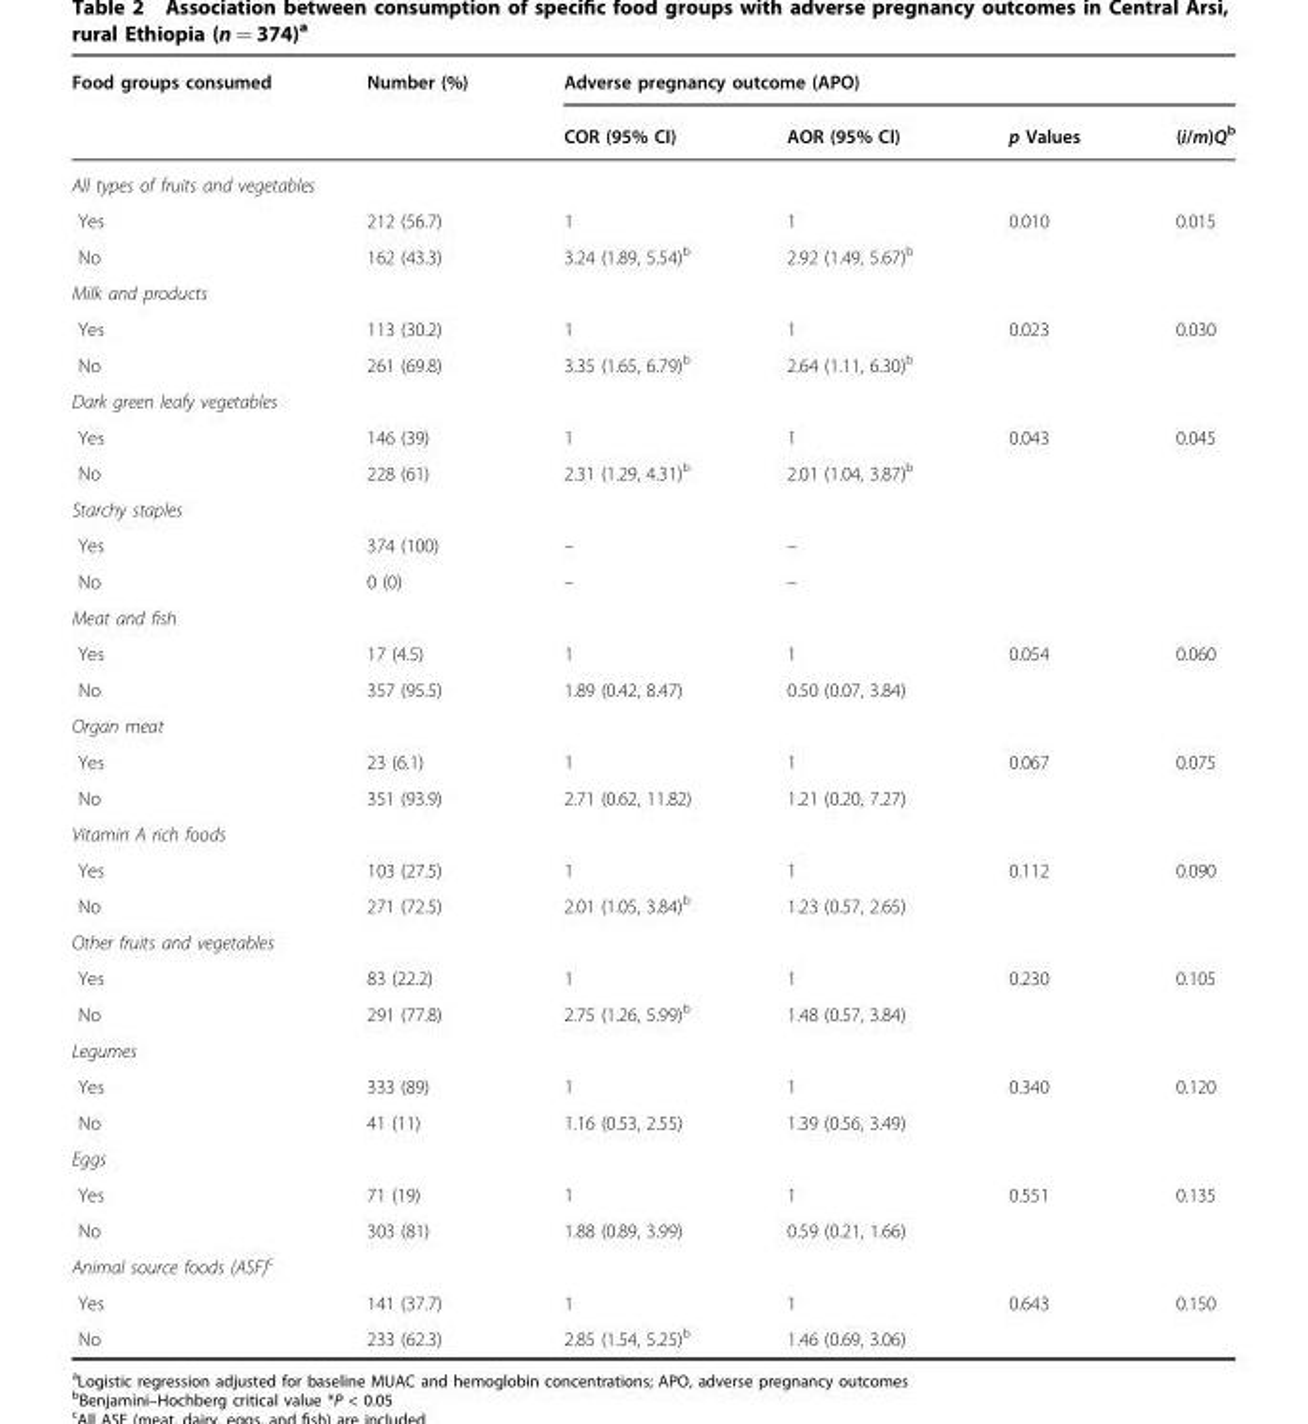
<table><thead><tr><td rowspan="2">Food groups consumed</td><td rowspan="2">Number (%)</td><td colspan="4">Adverse pregnancy outcome (APO)</td></tr><tr><td>COR (95% CI)</td><td>AOR (95% CI)</td><td>p Values</td><td>(i/m)Q<sup>b</sup></td></tr></thead><tbody><tr><td colspan="6">All types of fruits and vegetables</td></tr><tr><td>Yes</td><td>212 (56.7)</td><td>1</td><td>1</td><td rowspan="2">0.010</td><td rowspan="2">0.015</td></tr><tr><td>No</td><td>162 (43.3)</td><td>3.24 (1.89, 5.54)<sup>b</sup></td><td>2.92 (1.49, 5.67)<sup>b</sup></td></tr><tr><td colspan="6">Milk and products</td></tr><tr><td>Yes</td><td>113 (30.2)</td><td>1</td><td>1</td><td rowspan="2">0.023</td><td rowspan="2">0.030</td></tr><tr><td>No</td><td>261 (69.8)</td><td>3.35 (1.65, 6.79)<sup>b</sup></td><td>2.64 (1.11, 6.30)<sup>b</sup></td></tr><tr><td colspan="6">Dark green leafy vegetables</td></tr><tr><td>Yes</td><td>146 (39)</td><td>1</td><td>1</td><td rowspan="2">0.043</td><td rowspan="2">0.045</td></tr><tr><td>No</td><td>228 (61)</td><td>2.31 (1.29, 4.31)<sup>b</sup></td><td>2.01 (1.04, 3.87)<sup>b</sup></td></tr><tr><td colspan="6">Starchy staples</td></tr><tr><td>Yes</td><td>374 (100)</td><td>–</td><td>–</td><td></td><td></td></tr><tr><td>No</td><td>0 (0)</td><td>–</td><td>–</td><td></td><td></td></tr><tr><td colspan="6">Meat and fish</td></tr><tr><td>Yes</td><td>17 (4.5)</td><td>1</td><td>1</td><td rowspan="2">0.054</td><td rowspan="2">0.060</td></tr><tr><td>No</td><td>357 (95.5)</td><td>1.89 (0.42, 8.47)</td><td>0.50 (0.07, 3.84)</td></tr><tr><td colspan="6">Organ meat</td></tr><tr><td>Yes</td><td>23 (6.1)</td><td>1</td><td>1</td><td rowspan="2">0.067</td><td rowspan="2">0.075</td></tr><tr><td>No</td><td>351 (93.9)</td><td>2.71 (0.62, 11.82)</td><td>1.21 (0.20, 7.27)</td></tr><tr><td colspan="6">Vitamin A rich foods</td></tr><tr><td>Yes</td><td>103 (27.5)</td><td>1</td><td>1</td><td rowspan="2">0.112</td><td rowspan="2">0.090</td></tr><tr><td>No</td><td>271 (72.5)</td><td>2.01 (1.05, 3.84)<sup>b</sup></td><td>1.23 (0.57, 2.65)</td></tr><tr><td colspan="6">Other fruits and vegetables</td></tr><tr><td>Yes</td><td>83 (22.2)</td><td>1</td><td>1</td><td rowspan="2">0.230</td><td rowspan="2">0.105</td></tr><tr><td>No</td><td>291 (77.8)</td><td>2.75 (1.26, 5.99)<sup>b</sup></td><td>1.48 (0.57, 3.84)</td></tr><tr><td colspan="6">Legumes</td></tr><tr><td>Yes</td><td>333 (89)</td><td>1</td><td>1</td><td rowspan="2">0.340</td><td rowspan="2">0.120</td></tr><tr><td>No</td><td>41 (11)</td><td>1.16 (0.53, 2.55)</td><td>1.39 (0.56, 3.49)</td></tr><tr><td colspan="6">Eggs</td></tr><tr><td>Yes</td><td>71 (19)</td><td>1</td><td>1</td><td rowspan="2">0.551</td><td rowspan="2">0.135</td></tr><tr><td>No</td><td>303 (81)</td><td>1.88 (0.89, 3.99)</td><td>0.59 (0.21, 1.66)</td></tr><tr><td colspan="6">Animal source foods (ASF)<sup>c</sup></td></tr><tr><td>Yes</td><td>141 (37.7)</td><td>1</td><td>1</td><td rowspan="2">0.643</td><td rowspan="2">0.150</td></tr><tr><td>No</td><td>233 (62.3)</td><td>2.85 (1.54, 5.25)<sup>b</sup></td><td>1.46 (0.69, 3.06)</td></tr></tbody></table>